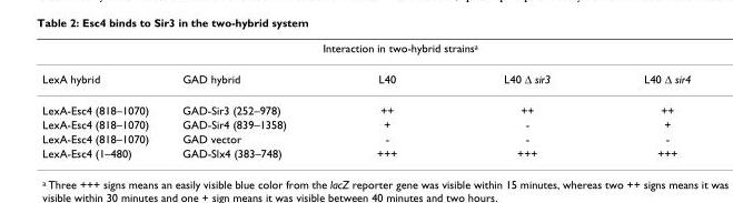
<table><thead><tr><td rowspan="2">LexA hybrid</td><td rowspan="2">GAD hybrid</td><td colspan="3">Interaction in two-hybrid strainsa</td></tr><tr><td>L40</td><td>L40 Δ sir3</td><td>L40 Δ sir4</td></tr></thead><tbody><tr><td>LexA-Esc4 (818–1070)</td><td>GAD-Sir3 (252–978)</td><td>++</td><td>++</td><td>++</td></tr><tr><td>LexA-Esc4 (818–1070)</td><td>GAD-Sir4 (839–1358)</td><td>+</td><td>-</td><td>+</td></tr><tr><td>LexA-Esc4 (818–1070)</td><td>GAD vector</td><td>-</td><td>-</td><td>-</td></tr><tr><td>LexA-Esc4 (1–480)</td><td>GAD-Slx4 (383–748)</td><td>+++</td><td>+++</td><td>+++</td></tr></tbody></table>